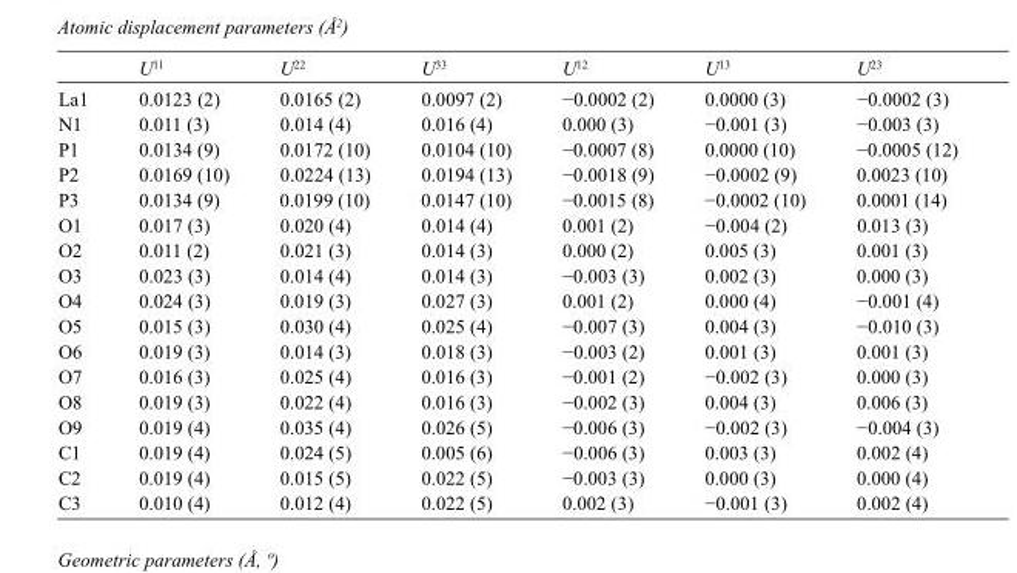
<table><thead><tr><td></td><td>U<sup>11</sup></td><td>U<sup>22</sup></td><td>U<sup>33</sup></td><td>U<sup>12</sup></td><td>U<sup>13</sup></td><td>U<sup>23</sup></td></tr></thead><tbody><tr><td>La1</td><td>0.0123 (2)</td><td>0.0165 (2)</td><td>0.0097 (2)</td><td>−0.0002 (2)</td><td>0.0000 (3)</td><td>−0.0002 (3)</td></tr><tr><td>N1</td><td>0.011 (3)</td><td>0.014 (4)</td><td>0.016 (4)</td><td>0.000 (3)</td><td>−0.001 (3)</td><td>−0.003 (3)</td></tr><tr><td>P1</td><td>0.0134 (9)</td><td>0.0172 (10)</td><td>0.0104 (10)</td><td>−0.0007 (8)</td><td>0.0000 (10)</td><td>−0.0005 (12)</td></tr><tr><td>P2</td><td>0.0169 (10)</td><td>0.0224 (13)</td><td>0.0194 (13)</td><td>−0.0018 (9)</td><td>−0.0002 (9)</td><td>0.0023 (10)</td></tr><tr><td>P3</td><td>0.0134 (9)</td><td>0.0199 (10)</td><td>0.0147 (10)</td><td>−0.0015 (8)</td><td>−0.0002 (10)</td><td>0.0001 (14)</td></tr><tr><td>O1</td><td>0.017 (3)</td><td>0.020 (4)</td><td>0.014 (4)</td><td>0.001 (2)</td><td>−0.004 (2)</td><td>0.013 (3)</td></tr><tr><td>O2</td><td>0.011 (2)</td><td>0.021 (3)</td><td>0.014 (3)</td><td>0.000 (2)</td><td>0.005 (3)</td><td>0.001 (3)</td></tr><tr><td>O3</td><td>0.023 (3)</td><td>0.014 (4)</td><td>0.014 (3)</td><td>−0.003 (3)</td><td>0.002 (3)</td><td>0.000 (3)</td></tr><tr><td>O4</td><td>0.024 (3)</td><td>0.019 (3)</td><td>0.027 (3)</td><td>0.001 (2)</td><td>0.000 (4)</td><td>−0.001 (4)</td></tr><tr><td>O5</td><td>0.015 (3)</td><td>0.030 (4)</td><td>0.025 (4)</td><td>−0.007 (3)</td><td>0.004 (3)</td><td>−0.010 (3)</td></tr><tr><td>O6</td><td>0.019 (3)</td><td>0.014 (3)</td><td>0.018 (3)</td><td>−0.003 (2)</td><td>0.001 (3)</td><td>0.001 (3)</td></tr><tr><td>O7</td><td>0.016 (3)</td><td>0.025 (4)</td><td>0.016 (3)</td><td>−0.001 (2)</td><td>−0.002 (3)</td><td>0.000 (3)</td></tr><tr><td>O8</td><td>0.019 (3)</td><td>0.022 (4)</td><td>0.016 (3)</td><td>−0.002 (3)</td><td>0.004 (3)</td><td>0.006 (3)</td></tr><tr><td>O9</td><td>0.019 (4)</td><td>0.035 (4)</td><td>0.026 (5)</td><td>−0.006 (3)</td><td>−0.002 (3)</td><td>−0.004 (3)</td></tr><tr><td>C1</td><td>0.019 (4)</td><td>0.024 (5)</td><td>0.005 (6)</td><td>−0.006 (3)</td><td>0.003 (3)</td><td>0.002 (4)</td></tr><tr><td>C2</td><td>0.019 (4)</td><td>0.015 (5)</td><td>0.022 (5)</td><td>−0.003 (3)</td><td>0.000 (3)</td><td>0.000 (4)</td></tr><tr><td>C3</td><td>0.010 (4)</td><td>0.012 (4)</td><td>0.022 (5)</td><td>0.002 (3)</td><td>−0.001 (3)</td><td>0.002 (4)</td></tr></tbody></table>